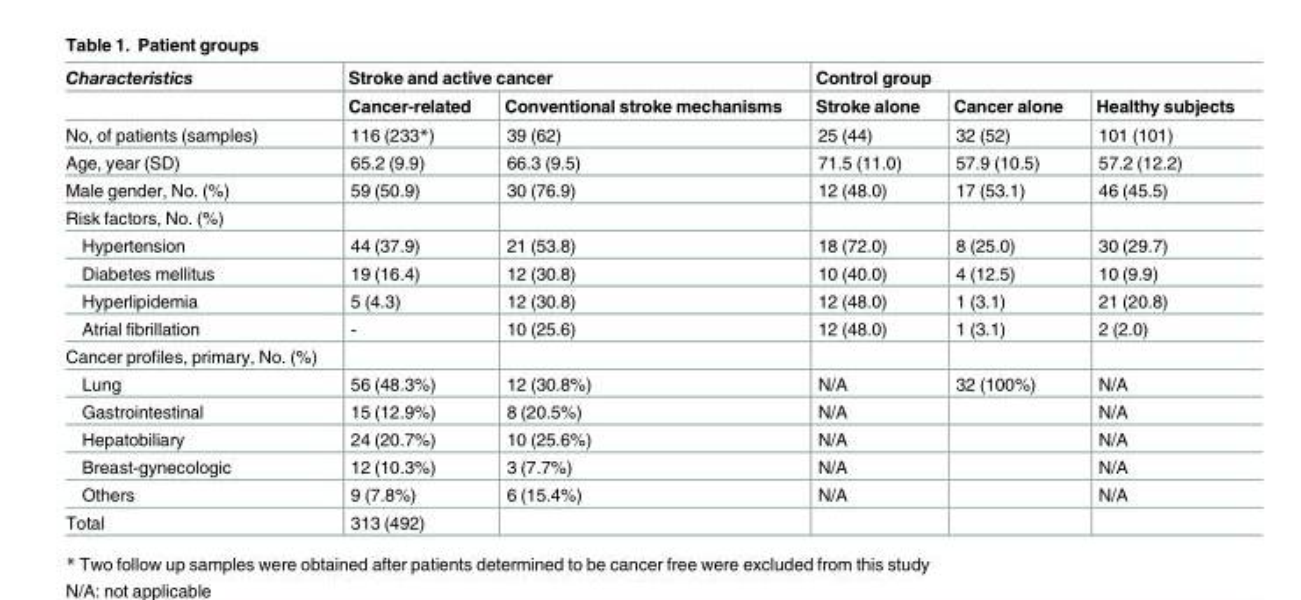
<table><thead><tr><td rowspan="2">Characteristics</td><td colspan="2">Stroke and active cancer</td><td colspan="3">Control group</td></tr><tr><td>Cancer-related</td><td>Conventional stroke mechanisms</td><td>Stroke alone</td><td>Cancer alone</td><td>Healthy subjects</td></tr></thead><tbody><tr><td>No, of patients (samples)</td><td>116 (233*)</td><td>39 (62)</td><td>25 (44)</td><td>32 (52)</td><td>101 (101)</td></tr><tr><td>Age, year (SD)</td><td>65.2 (9.9)</td><td>66.3 (9.5)</td><td>71.5 (11.0)</td><td>57.9 (10.5)</td><td>57.2 (12.2)</td></tr><tr><td>Male gender, No. (%)</td><td>59 (50.9)</td><td>30 (76.9)</td><td>12 (48.0)</td><td>17 (53.1)</td><td>46 (45.5)</td></tr><tr><td colspan="6">Risk factors, No. (%)</td></tr><tr><td>Hypertension</td><td>44 (37.9)</td><td>21 (53.8)</td><td>18 (72.0)</td><td>8 (25.0)</td><td>30 (29.7)</td></tr><tr><td>Diabetes mellitus</td><td>19 (16.4)</td><td>12 (30.8)</td><td>10 (40.0)</td><td>4 (12.5)</td><td>10 (9.9)</td></tr><tr><td>Hyperlipidemia</td><td>5 (4.3)</td><td>12 (30.8)</td><td>12 (48.0)</td><td>1 (3.1)</td><td>21 (20.8)</td></tr><tr><td>Atrial fibrillation</td><td>-</td><td>10 (25.6)</td><td>12 (48.0)</td><td>1 (3.1)</td><td>2 (2.0)</td></tr><tr><td colspan="6">Cancer profiles, primary, No. (%)</td></tr><tr><td>Lung</td><td>56 (48.3%)</td><td>12 (30.8%)</td><td>N/A</td><td>32 (100%)</td><td>N/A</td></tr><tr><td>Gastrointestinal</td><td>15 (12.9%)</td><td>8 (20.5%)</td><td>N/A</td><td></td><td>N/A</td></tr><tr><td>Hepatobiliary</td><td>24 (20.7%)</td><td>10 (25.6%)</td><td>N/A</td><td></td><td>N/A</td></tr><tr><td>Breast-gynecologic</td><td>12 (10.3%)</td><td>3 (7.7%)</td><td>N/A</td><td></td><td>N/A</td></tr><tr><td>Others</td><td>9 (7.8%)</td><td>6 (15.4%)</td><td>N/A</td><td></td><td>N/A</td></tr><tr><td>Total</td><td>313 (492)</td><td></td><td></td><td></td><td></td></tr></tbody></table>